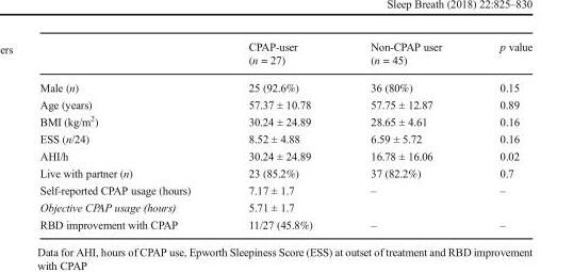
<table><thead><tr><td></td><td>CPAP-user (n = 27)</td><td>Non-CPAP user (n = 45)</td><td>p value</td></tr></thead><tbody><tr><td>Male (n)</td><td>25 (92.6%)</td><td>36 (80%)</td><td>0.15</td></tr><tr><td>Age (years)</td><td>57.37 ± 10.78</td><td>57.75 ± 12.87</td><td>0.89</td></tr><tr><td>BMI (kg/m<sup>2</sup>)</td><td>30.24 ± 24.89</td><td>28.65 ± 4.61</td><td>0.16</td></tr><tr><td>ESS (n/24)</td><td>8.52 ± 4.88</td><td>6.59 ± 5.72</td><td>0.16</td></tr><tr><td>AHI/h</td><td>30.24 ± 24.89</td><td>16.78 ± 16.06</td><td>0.02</td></tr><tr><td>Live with partner (n)</td><td>23 (85.2%)</td><td>37 (82.2%)</td><td>0.7</td></tr><tr><td>Self-reported CPAP usage (hours)</td><td>7.17 ± 1.7</td><td>–</td><td>–</td></tr><tr><td>Objective CPAP usage (hours)</td><td>5.71 ± 1.7</td><td></td><td></td></tr><tr><td>RBD improvement with CPAP</td><td>11/27 (45.8%)</td><td>–</td><td>–</td></tr></tbody></table>